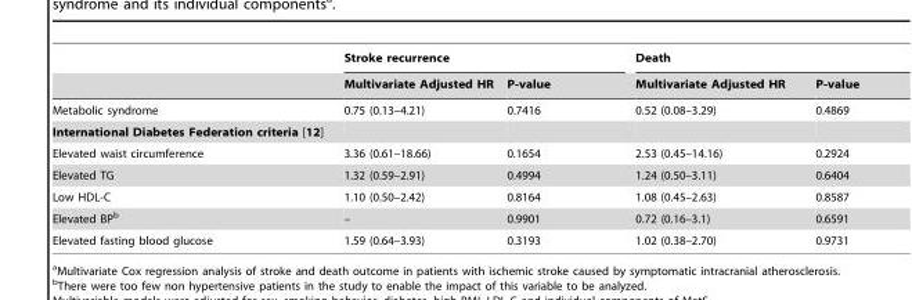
<table><thead><tr><td rowspan="2"></td><td colspan="2">Stroke recurrence</td><td colspan="2">Death</td></tr><tr><td>Multivariate Adjusted HR</td><td>P-value</td><td>Multivariate Adjusted HR</td><td>P-value</td></tr></thead><tbody><tr><td>Metabolic syndrome</td><td>0.75 (0.13–4.21)</td><td>0.7416</td><td>0.52 (0.08–3.29)</td><td>0.4869</td></tr><tr><td colspan="5">International Diabetes Federation criteria [12]</td></tr><tr><td>Elevated waist circumference</td><td>3.36 (0.61–18.66)</td><td>0.1654</td><td>2.53 (0.45–14.16)</td><td>0.2924</td></tr><tr><td>Elevated TG</td><td>1.32 (0.59–2.91)</td><td>0.4994</td><td>1.24 (0.50–3.11)</td><td>0.6404</td></tr><tr><td>Low HDL-C</td><td>1.10 (0.50–2.42)</td><td>0.8164</td><td>1.08 (0.45–2.63)</td><td>0.8587</td></tr><tr><td>Elevated BP<sup>b</sup></td><td>–</td><td>0.9901</td><td>0.72 (0.16–3.1)</td><td>0.6591</td></tr><tr><td>Elevated fasting blood glucose</td><td>1.59 (0.64–3.93)</td><td>0.3193</td><td>1.02 (0.38–2.70)</td><td>0.9731</td></tr></tbody></table>